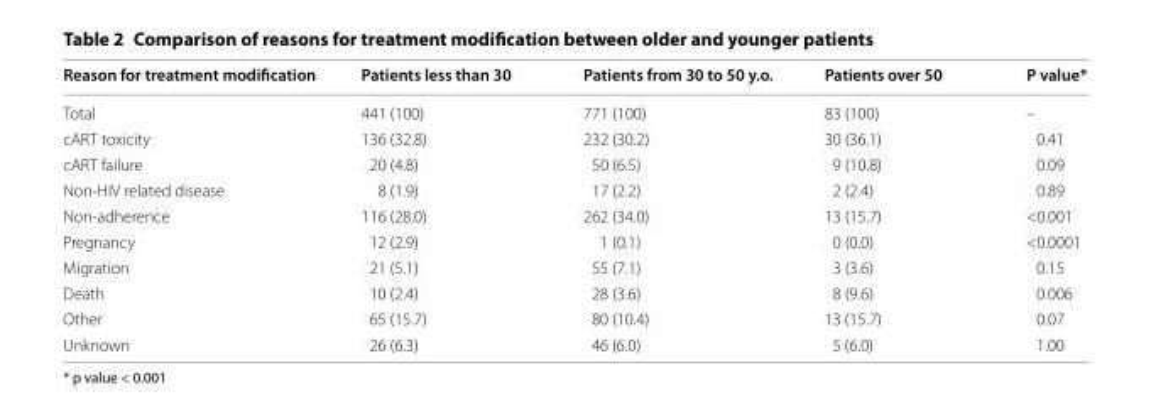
<table><thead><tr><td>Reason for treatment modification</td><td>Patients less than 30</td><td>Patients from 30 to 50 y.o.</td><td>Patients over 50</td><td>P value*</td></tr></thead><tbody><tr><td>Total</td><td>441 (100)</td><td>771 (100)</td><td>83 (100)</td><td>–</td></tr><tr><td>cART toxicity</td><td>136 (32.8)</td><td>232 (30.2)</td><td>30 (36.1)</td><td>0.41</td></tr><tr><td>cART failure</td><td>20 (4.8)</td><td>50 (6.5)</td><td>9 (10.8)</td><td>0.09</td></tr><tr><td>Non‑HIV related disease</td><td>8 (1.9)</td><td>17 (2.2)</td><td>2 (2.4)</td><td>0.89</td></tr><tr><td>Non‑adherence</td><td>116 (28.0)</td><td>262 (34.0)</td><td>13 (15.7)</td><td>&lt;0.001</td></tr><tr><td>Pregnancy</td><td>12 (2.9)</td><td>1 (0.1)</td><td>0 (0.0)</td><td>&lt;0.0001</td></tr><tr><td>Migration</td><td>21 (5.1)</td><td>55 (7.1)</td><td>3 (3.6)</td><td>0.15</td></tr><tr><td>Death</td><td>10 (2.4)</td><td>28 (3.6)</td><td>8 (9.6)</td><td>0.006</td></tr><tr><td>Other</td><td>65 (15.7)</td><td>80 (10.4)</td><td>13 (15.7)</td><td>0.07</td></tr><tr><td>Unknown</td><td>26 (6.3)</td><td>46 (6.0)</td><td>5 (6.0)</td><td>1.00</td></tr></tbody></table>